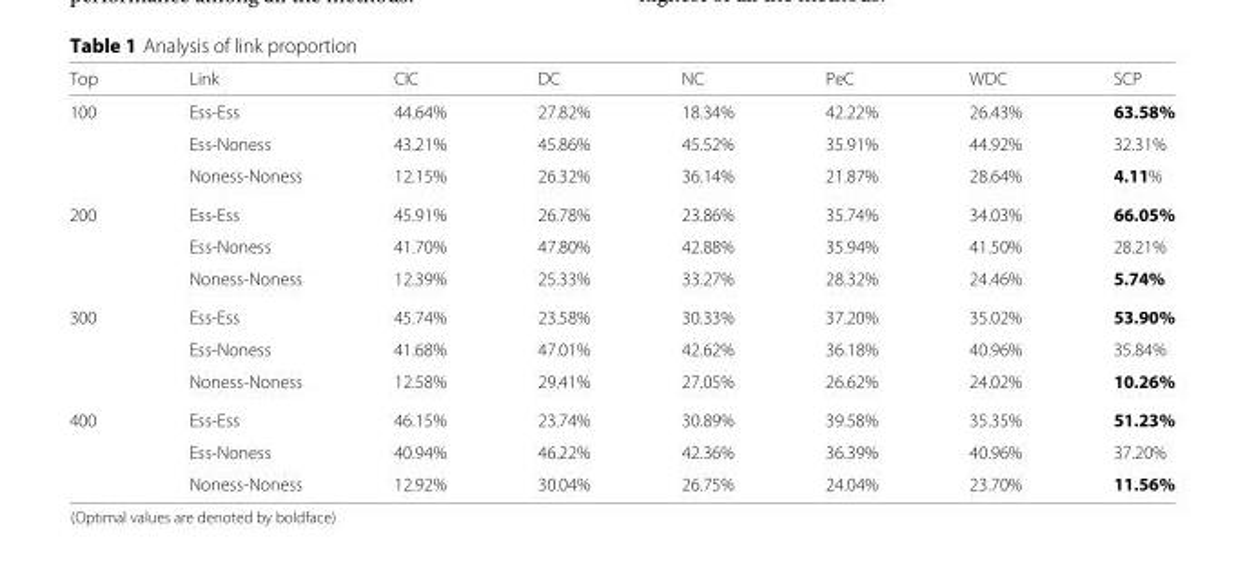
<table><thead><tr><td>Top</td><td>Link</td><td>CIC</td><td>DC</td><td>NC</td><td>PeC</td><td>WDC</td><td>SCP</td></tr></thead><tbody><tr><td rowspan="3">100</td><td>Ess-Ess</td><td>44.64%</td><td>27.82%</td><td>18.34%</td><td>42.22%</td><td>26.43%</td><td>63.58%</td></tr><tr><td>Ess-Noness</td><td>43.21%</td><td>45.86%</td><td>45.52%</td><td>35.91%</td><td>44.92%</td><td>32.31%</td></tr><tr><td>Noness-Noness</td><td>12.15%</td><td>26.32%</td><td>36.14%</td><td>21.87%</td><td>28.64%</td><td>4.11%</td></tr><tr><td rowspan="3">200</td><td>Ess-Ess</td><td>45.91%</td><td>26.78%</td><td>23.86%</td><td>35.74%</td><td>34.03%</td><td>66.05%</td></tr><tr><td>Ess-Noness</td><td>41.70%</td><td>47.80%</td><td>42.88%</td><td>35.94%</td><td>41.50%</td><td>28.21%</td></tr><tr><td>Noness-Noness</td><td>12.39%</td><td>25.33%</td><td>33.27%</td><td>28.32%</td><td>24.46%</td><td>5.74%</td></tr><tr><td rowspan="3">300</td><td>Ess-Ess</td><td>45.74%</td><td>23.58%</td><td>30.33%</td><td>37.20%</td><td>35.02%</td><td>53.90%</td></tr><tr><td>Ess-Noness</td><td>41.68%</td><td>47.01%</td><td>42.62%</td><td>36.18%</td><td>40.96%</td><td>35.84%</td></tr><tr><td>Noness-Noness</td><td>12.58%</td><td>29.41%</td><td>27.05%</td><td>26.62%</td><td>24.02%</td><td>10.26%</td></tr><tr><td rowspan="3">400</td><td>Ess-Ess</td><td>46.15%</td><td>23.74%</td><td>30.89%</td><td>39.58%</td><td>35.35%</td><td>51.23%</td></tr><tr><td>Ess-Noness</td><td>40.94%</td><td>46.22%</td><td>42.36%</td><td>36.39%</td><td>40.96%</td><td>37.20%</td></tr><tr><td>Noness-Noness</td><td>12.92%</td><td>30.04%</td><td>26.75%</td><td>24.04%</td><td>23.70%</td><td>11.56%</td></tr></tbody></table>